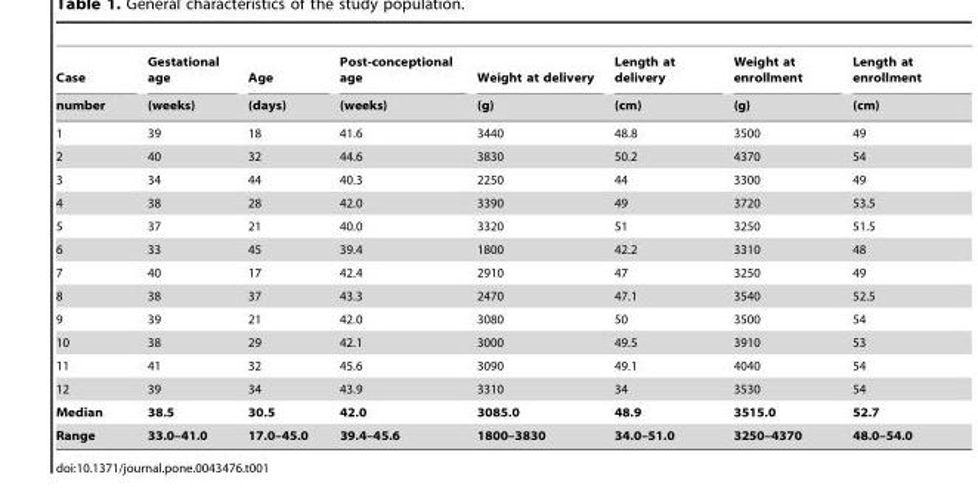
<table><thead><tr><td rowspan="2">Case number</td><td rowspan="2">Gestational age (weeks)</td><td rowspan="2">Age (days)</td><td rowspan="2">Post-conceptional age (weeks)</td><td rowspan="2">Weight at delivery (g)</td><td rowspan="2">Length at delivery (cm)</td><td rowspan="2">Weight at enrollment (g)</td><td rowspan="2">Length at enrollment (cm)</td></tr><tr></tr></thead><tbody><tr><td>1</td><td>39</td><td>18</td><td>41.6</td><td>3440</td><td>48.8</td><td>3500</td><td>49</td></tr><tr><td>2</td><td>40</td><td>32</td><td>44.6</td><td>3830</td><td>50.2</td><td>4370</td><td>54</td></tr><tr><td>3</td><td>34</td><td>44</td><td>40.3</td><td>2250</td><td>44</td><td>3300</td><td>49</td></tr><tr><td>4</td><td>38</td><td>28</td><td>42.0</td><td>3390</td><td>49</td><td>3720</td><td>53.5</td></tr><tr><td>5</td><td>37</td><td>21</td><td>40.0</td><td>3320</td><td>51</td><td>3250</td><td>51.5</td></tr><tr><td>6</td><td>33</td><td>45</td><td>39.4</td><td>1800</td><td>42.2</td><td>3310</td><td>48</td></tr><tr><td>7</td><td>40</td><td>17</td><td>42.4</td><td>2910</td><td>47</td><td>3250</td><td>49</td></tr><tr><td>8</td><td>38</td><td>37</td><td>43.3</td><td>2470</td><td>47.1</td><td>3540</td><td>52.5</td></tr><tr><td>9</td><td>39</td><td>21</td><td>42.0</td><td>3080</td><td>50</td><td>3500</td><td>54</td></tr><tr><td>10</td><td>38</td><td>29</td><td>42.1</td><td>3000</td><td>49.5</td><td>3910</td><td>53</td></tr><tr><td>11</td><td>41</td><td>32</td><td>45.6</td><td>3090</td><td>49.1</td><td>4040</td><td>54</td></tr><tr><td>12</td><td>39</td><td>34</td><td>43.9</td><td>3310</td><td>34</td><td>3530</td><td>54</td></tr><tr><td>Median</td><td>38.5</td><td>30.5</td><td>42.0</td><td>3085.0</td><td>48.9</td><td>3515.0</td><td>52.7</td></tr><tr><td>Range</td><td>33.0–41.0</td><td>17.0–45.0</td><td>39.4–45.6</td><td>1800–3830</td><td>34.0–51.0</td><td>3250–4370</td><td>48.0–54.0</td></tr></tbody></table>